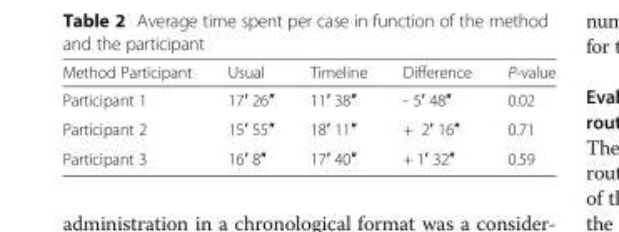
<table><thead><tr><td>Method Participant</td><td>Usual</td><td>Timeline</td><td>Difference</td><td>P-value</td></tr></thead><tbody><tr><td>Participant 1</td><td>17′ 26″</td><td>11′ 38″</td><td>- 5′ 48″</td><td>0.02</td></tr><tr><td>Participant 2</td><td>15′ 55″</td><td>18′ 11″</td><td>+ 2′ 16″</td><td>0.71</td></tr><tr><td>Participant 3</td><td>16′ 8″</td><td>17′ 40″</td><td>+ 1′ 32″</td><td>0.59</td></tr></tbody></table>